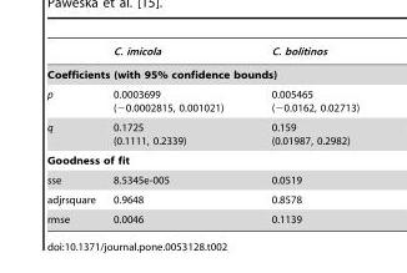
<table><thead><tr><td></td><td>C. imicola</td><td>C. bolitinos</td></tr></thead><tbody><tr><td colspan="3">Coefficients (with 95% confidence bounds)</td></tr><tr><td>p</td><td>0.0003699 (−0.0002815, 0.001021)</td><td>0.005465 (−0.0162, 0.02713)</td></tr><tr><td>q</td><td>0.1725 (0.1111, 0.2339)</td><td>0.159 (0.01987, 0.2982)</td></tr><tr><td colspan="3">Goodness of fit</td></tr><tr><td>sse</td><td>8.5345e-005</td><td>0.0519</td></tr><tr><td>adjrsquare</td><td>0.9648</td><td>0.8578</td></tr><tr><td>rmse</td><td>0.0046</td><td>0.1139</td></tr></tbody></table>